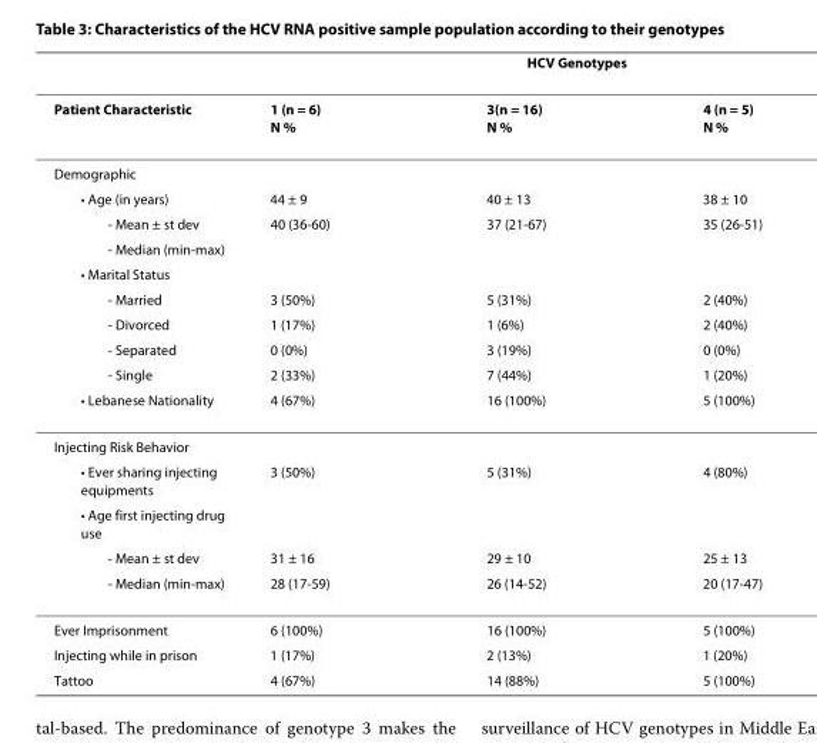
<table><thead><tr><td rowspan="2">Patient Characteristic</td><td colspan="3">HCV Genotypes</td></tr><tr><td>1 (n = 6) N %</td><td>3(n = 16) N %</td><td>4 (n = 5) N %</td></tr></thead><tbody><tr><td colspan="4">Demographic</td></tr><tr><td>• Age (in years)</td><td>44 ± 9</td><td>40 ± 13</td><td>38 ± 10</td></tr><tr><td>- Mean ± st dev</td><td>40 (36-60)</td><td>37 (21-67)</td><td>35 (26-51)</td></tr><tr><td colspan="4">- Median (min-max)</td></tr><tr><td colspan="4">• Marital Status</td></tr><tr><td>- Married</td><td>3 (50%)</td><td>5 (31%)</td><td>2 (40%)</td></tr><tr><td>- Divorced</td><td>1 (17%)</td><td>1 (6%)</td><td>2 (40%)</td></tr><tr><td>- Separated</td><td>0 (0%)</td><td>3 (19%)</td><td>0 (0%)</td></tr><tr><td>- Single</td><td>2 (33%)</td><td>7 (44%)</td><td>1 (20%)</td></tr><tr><td>• Lebanese Nationality</td><td>4 (67%)</td><td>16 (100%)</td><td>5 (100%)</td></tr><tr><td colspan="4">Injecting Risk Behavior</td></tr><tr><td>• Ever sharing injecting equipments</td><td>3 (50%)</td><td>5 (31%)</td><td>4 (80%)</td></tr><tr><td colspan="4">• Age first injecting drug use</td></tr><tr><td>- Mean ± st dev</td><td>31 ± 16</td><td>29 ± 10</td><td>25 ± 13</td></tr><tr><td>- Median (min-max)</td><td>28 (17-59)</td><td>26 (14-52)</td><td>20 (17-47)</td></tr><tr><td>Ever Imprisonment</td><td>6 (100%)</td><td>16 (100%)</td><td>5 (100%)</td></tr><tr><td>Injecting while in prison</td><td>1 (17%)</td><td>2 (13%)</td><td>1 (20%)</td></tr><tr><td>Tattoo</td><td>4 (67%)</td><td>14 (88%)</td><td>5 (100%)</td></tr></tbody></table>